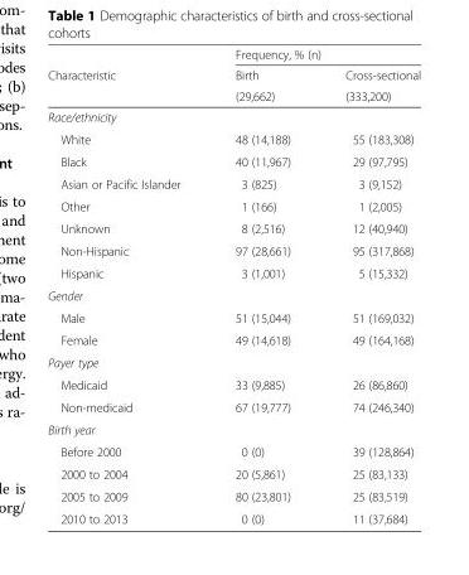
<table><thead><tr><td rowspan="3">Characteristic</td><td colspan="2">Frequency, % (n)</td></tr><tr><td rowspan="2">Birth (29,662)</td><td rowspan="2">Cross-sectional (333,200)</td></tr><tr></tr></thead><tbody><tr><td colspan="3">Race/ethnicity</td></tr><tr><td>White</td><td>48 (14,188)</td><td>55 (183,308)</td></tr><tr><td>Black</td><td>40 (11,967)</td><td>29 (97,795)</td></tr><tr><td>Asian or Pacific Islander</td><td>3 (825)</td><td>3 (9,152)</td></tr><tr><td>Other</td><td>1 (166)</td><td>1 (2,005)</td></tr><tr><td>Unknown</td><td>8 (2,516)</td><td>12 (40,940)</td></tr><tr><td>Non-Hispanic</td><td>97 (28,661)</td><td>95 (317,868)</td></tr><tr><td>Hispanic</td><td>3 (1,001)</td><td>5 (15,332)</td></tr><tr><td colspan="3">Gender</td></tr><tr><td>Male</td><td>51 (15,044)</td><td>51 (169,032)</td></tr><tr><td>Female</td><td>49 (14,618)</td><td>49 (164,168)</td></tr><tr><td colspan="3">Payer type</td></tr><tr><td>Medicaid</td><td>33 (9,885)</td><td>26 (86,860)</td></tr><tr><td>Non-medicaid</td><td>67 (19,777)</td><td>74 (246,340)</td></tr><tr><td colspan="3">Birth year</td></tr><tr><td>Before 2000</td><td>0 (0)</td><td>39 (128,864)</td></tr><tr><td>2000 to 2004</td><td>20 (5,861)</td><td>25 (83,133)</td></tr><tr><td>2005 to 2009</td><td>80 (23,801)</td><td>25 (83,519)</td></tr><tr><td>2010 to 2013</td><td>0 (0)</td><td>11 (37,684)</td></tr></tbody></table>